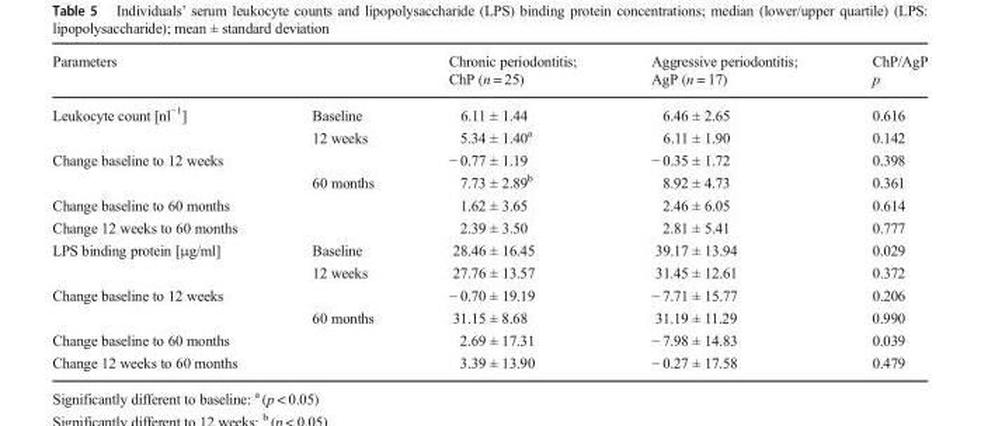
<table><thead><tr><td>Parameters</td><td></td><td>Chronic periodontitis; ChP (n = 25)</td><td>Aggressive periodontitis; AgP (n = 17)</td><td>ChP/AgP p</td></tr></thead><tbody><tr><td rowspan="2">Leukocyte count [nl<sup>−1</sup>]</td><td>Baseline</td><td>6.11 ± 1.44</td><td>6.46 ± 2.65</td><td>0.616</td></tr><tr><td>12 weeks</td><td>5.34 ± 1.40<sup>a</sup></td><td>6.11 ± 1.90</td><td>0.142</td></tr><tr><td rowspan="2">Change baseline to 12 weeks</td><td></td><td>− 0.77 ± 1.19</td><td>− 0.35 ± 1.72</td><td>0.398</td></tr><tr><td>60 months</td><td>7.73 ± 2.89<sup>b</sup></td><td>8.92 ± 4.73</td><td>0.361</td></tr><tr><td>Change baseline to 60 months</td><td></td><td>1.62 ± 3.65</td><td>2.46 ± 6.05</td><td>0.614</td></tr><tr><td>Change 12 weeks to 60 months</td><td></td><td>2.39 ± 3.50</td><td>2.81 ± 5.41</td><td>0.777</td></tr><tr><td rowspan="2">LPS binding protein [μg/ml]</td><td>Baseline</td><td>28.46 ± 16.45</td><td>39.17 ± 13.94</td><td>0.029</td></tr><tr><td>12 weeks</td><td>27.76 ± 13.57</td><td>31.45 ± 12.61</td><td>0.372</td></tr><tr><td rowspan="2">Change baseline to 12 weeks</td><td></td><td>− 0.70 ± 19.19</td><td>− 7.71 ± 15.77</td><td>0.206</td></tr><tr><td>60 months</td><td>31.15 ± 8.68</td><td>31.19 ± 11.29</td><td>0.990</td></tr><tr><td>Change baseline to 60 months</td><td></td><td>2.69 ± 17.31</td><td>− 7.98 ± 14.83</td><td>0.039</td></tr><tr><td>Change 12 weeks to 60 months</td><td></td><td>3.39 ± 13.90</td><td>− 0.27 ± 17.58</td><td>0.479</td></tr></tbody></table>